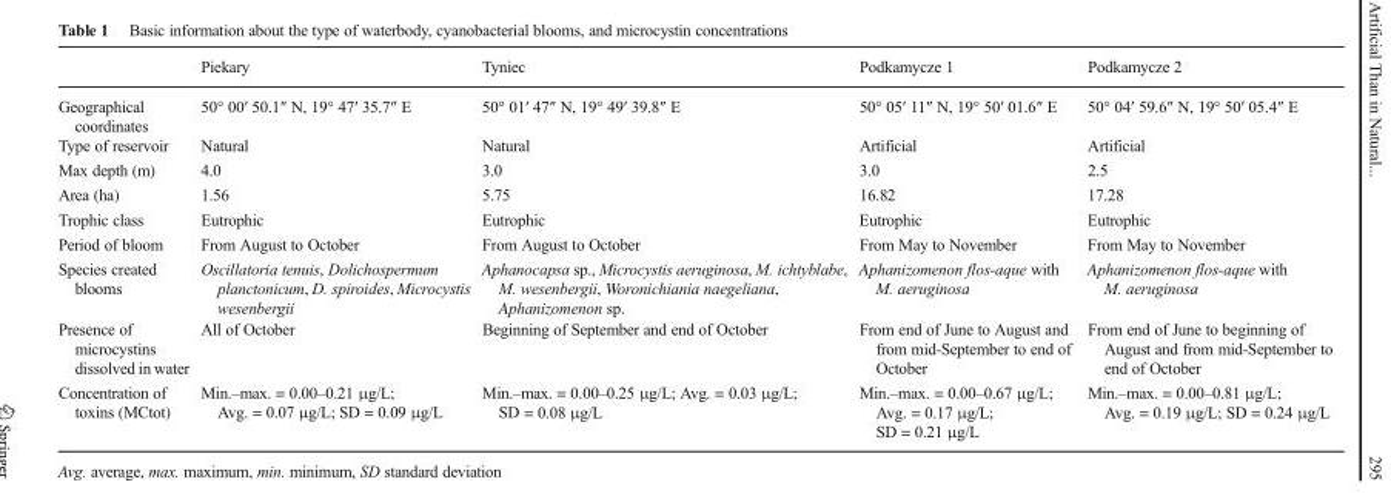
<table><thead><tr><td></td><td>Piekary</td><td>Tyniec</td><td>Podkamycze 1</td><td>Podkamycze 2</td></tr></thead><tbody><tr><td>Geographical coordinates</td><td>50° 00′ 50.1″ N, 19° 47′ 35.7″ E</td><td>50° 01′ 47″ N, 19° 49′ 39.8″ E</td><td>50° 05′ 11″ N, 19° 50′ 01.6″ E</td><td>50° 04′ 59.6″ N, 19° 50′ 05.4″ E</td></tr><tr><td>Type of reservoir</td><td>Natural</td><td>Natural</td><td>Artificial</td><td>Artificial</td></tr><tr><td>Max depth (m)</td><td>4.0</td><td>3.0</td><td>3.0</td><td>2.5</td></tr><tr><td>Area (ha)</td><td>1.56</td><td>5.75</td><td>16.82</td><td>17.28</td></tr><tr><td>Trophic class</td><td>Eutrophic</td><td>Eutrophic</td><td>Eutrophic</td><td>Eutrophic</td></tr><tr><td>Period of bloom</td><td>From August to October</td><td>From August to October</td><td>From May to November</td><td>From May to November</td></tr><tr><td>Species created blooms</td><td>Oscillatoria tenuis, Dolichospermum planctonicum, D. spiroides, Microcystis wesenbergii</td><td>Aphanocapsa sp., Microcystis aeruginosa, M. ichtyblabe, M. wesenbergii, Woronichiania naegeliana, Aphanizomenon sp.</td><td>Aphanizomenon flos-aque with M. aeruginosa</td><td>Aphanizomenon flos-aque with M. aeruginosa</td></tr><tr><td>Presence of microcystins dissolved in water</td><td>All of October</td><td>Beginning of September and end of October</td><td>From end of June to August and from mid-September to end of October</td><td>From end of June to beginning of August and from mid-September to end of October</td></tr><tr><td>Concentration of toxins (MCtot)</td><td>Min.–max. = 0.00–0.21 μg/L; Avg. = 0.07 μg/L; SD = 0.09 μg/L</td><td>Min.–max. = 0.00–0.25 μg/L; Avg. = 0.03 μg/L; SD = 0.08 μg/L</td><td>Min.–max. = 0.00–0.67 μg/L; Avg. = 0.17 μg/L; SD = 0.21 μg/L</td><td>Min.–max. = 0.00–0.81 μg/L; Avg. = 0.19 μg/L; SD = 0.24 μg/L</td></tr></tbody></table>